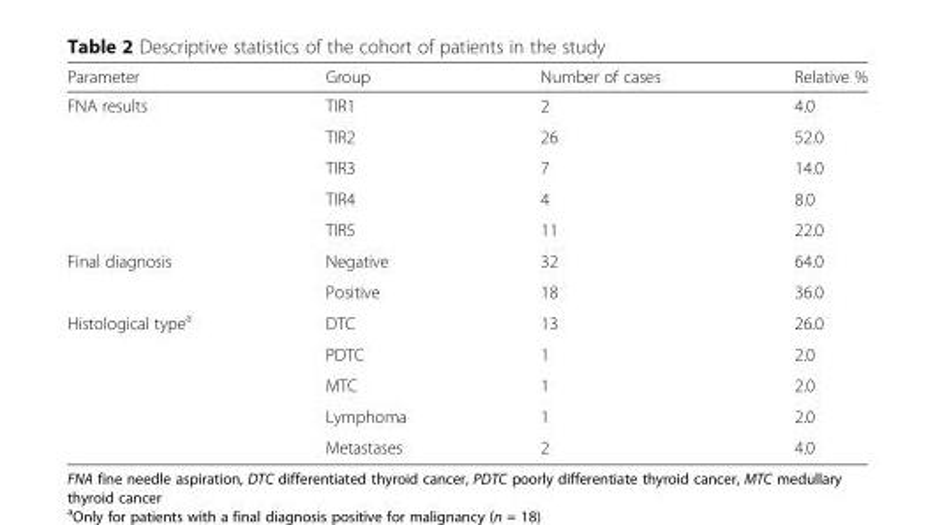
<table><thead><tr><td>Parameter</td><td>Group</td><td>Number of cases</td><td>Relative %</td></tr></thead><tbody><tr><td rowspan="5">FNA results</td><td>TIR1</td><td>2</td><td>4.0</td></tr><tr><td>TIR2</td><td>26</td><td>52.0</td></tr><tr><td>TIR3</td><td>7</td><td>14.0</td></tr><tr><td>TIR4</td><td>4</td><td>8.0</td></tr><tr><td>TIR5</td><td>11</td><td>22.0</td></tr><tr><td rowspan="2">Final diagnosis</td><td>Negative</td><td>32</td><td>64.0</td></tr><tr><td>Positive</td><td>18</td><td>36.0</td></tr><tr><td rowspan="5">Histological type<sup>a</sup></td><td>DTC</td><td>13</td><td>26.0</td></tr><tr><td>PDTC</td><td>1</td><td>2.0</td></tr><tr><td>MTC</td><td>1</td><td>2.0</td></tr><tr><td>Lymphoma</td><td>1</td><td>2.0</td></tr><tr><td>Metastases</td><td>2</td><td>4.0</td></tr></tbody></table>